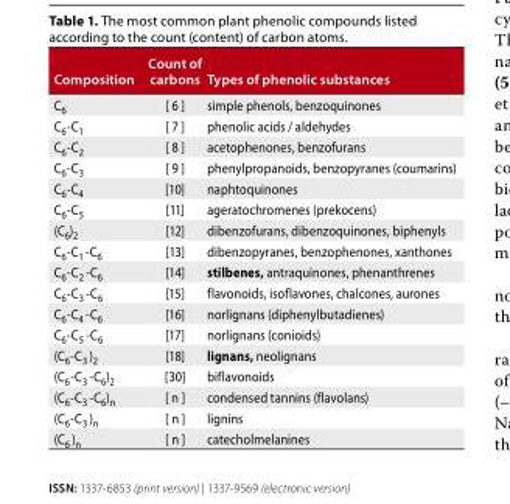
<table><thead><tr><td>Composition</td><td>Count of carbons</td><td>Types of phenolic substances</td></tr></thead><tbody><tr><td>C<sub>6</sub></td><td>[ 6 ]</td><td>simple phenols, benzoquinones</td></tr><tr><td>C<sub>6</sub>-C<sub>1</sub></td><td>[ 7 ]</td><td>phenolic acids / aldehydes</td></tr><tr><td>C<sub>6</sub>-C<sub>2</sub></td><td>[ 8 ]</td><td>acetophenones, benzofurans</td></tr><tr><td>C<sub>6</sub>-C<sub>3</sub></td><td>[ 9 ]</td><td>phenylpropanoids, benzopyranes (coumarins)</td></tr><tr><td>C<sub>6</sub>-C<sub>4</sub></td><td>[10]</td><td>naphtoquinones</td></tr><tr><td>C<sub>6</sub>-C<sub>5</sub></td><td>[11]</td><td>ageratochromenes (prekocens)</td></tr><tr><td>(C<sub>6</sub>)<sub>2</sub></td><td>[12]</td><td>dibenzofurans, dibenzoquinones, biphenyls</td></tr><tr><td>C<sub>6</sub>-C<sub>1</sub> -C<sub>6</sub></td><td>[13]</td><td>dibenzopyranes, benzophenones, xanthones</td></tr><tr><td>C<sub>6</sub>-C<sub>2</sub> -C<sub>6</sub></td><td>[14]</td><td>stilbenes, antraquinones, phenanthrenes</td></tr><tr><td>C<sub>6</sub>-C<sub>3</sub> -C<sub>6</sub></td><td>[15]</td><td>flavonoids, isoflavones, chalcones, aurones</td></tr><tr><td>C<sub>6</sub>-C<sub>4</sub> -C<sub>6</sub></td><td>[16]</td><td>norlignans (diphenylbutadienes)</td></tr><tr><td>C<sub>6</sub>-C<sub>5</sub> -C<sub>6</sub></td><td>[17]</td><td>norlignans (conioids)</td></tr><tr><td>(C<sub>6</sub>-C<sub>3</sub> )<sub>2</sub></td><td>[18]</td><td>lignans, neolignans</td></tr><tr><td>(C<sub>6</sub>-C<sub>3</sub> -C<sub>6</sub>)<sub>2</sub></td><td>[30]</td><td>biflavonoids</td></tr><tr><td>(C<sub>6</sub>-C<sub>3</sub> -C<sub>6</sub>)<sub>n</sub></td><td>[ n ]</td><td>condensed tannins (flavolans)</td></tr><tr><td>(C<sub>6</sub>-C<sub>3</sub> )<sub>n</sub></td><td>[ n ]</td><td>lignins</td></tr><tr><td>(C<sub>6</sub> )<sub>n</sub></td><td>[ n ]</td><td>catecholmelanines</td></tr></tbody></table>